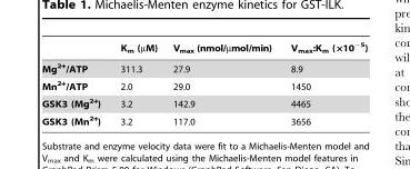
<table><thead><tr><td></td><td>K<sub>m</sub> (µM)</td><td>V<sub>max</sub> (nmol/µmol/min)</td><td>Vmax:Km (×10−5)</td></tr></thead><tbody><tr><td>Mg<sup>2+</sup>/ATP</td><td>311.3</td><td>27.9</td><td>8.9</td></tr><tr><td>Mn<sup>2+</sup>/ATP</td><td>2.0</td><td>29.0</td><td>1450</td></tr><tr><td>GSK3 (Mg<sup>2+</sup>)</td><td>3.2</td><td>142.9</td><td>4465</td></tr><tr><td>GSK3 (Mn<sup>2+</sup>)</td><td>3.2</td><td>117.0</td><td>3656</td></tr></tbody></table>